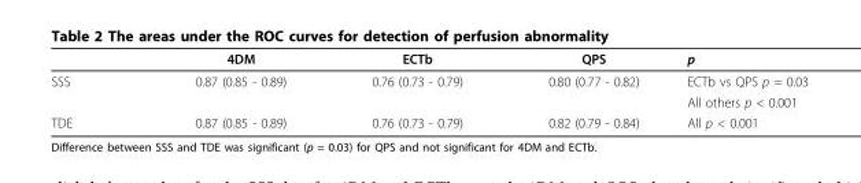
<table><thead><tr><td></td><td>4DM</td><td>ECTb</td><td>QPS</td><td>p</td></tr></thead><tbody><tr><td rowspan="2">SSS</td><td>0.87 (0.85 - 0.89)</td><td>0.76 (0.73 - 0.79)</td><td>0.80 (0.77 - 0.82)</td><td>ECTb vs QPS p = 0.03</td></tr><tr><td></td><td></td><td></td><td>All others p &lt; 0.001</td></tr><tr><td>TDE</td><td>0.87 (0.85 - 0.89)</td><td>0.76 (0.73 - 0.79)</td><td>0.82 (0.79 - 0.84)</td><td>All p &lt; 0.001</td></tr></tbody></table>